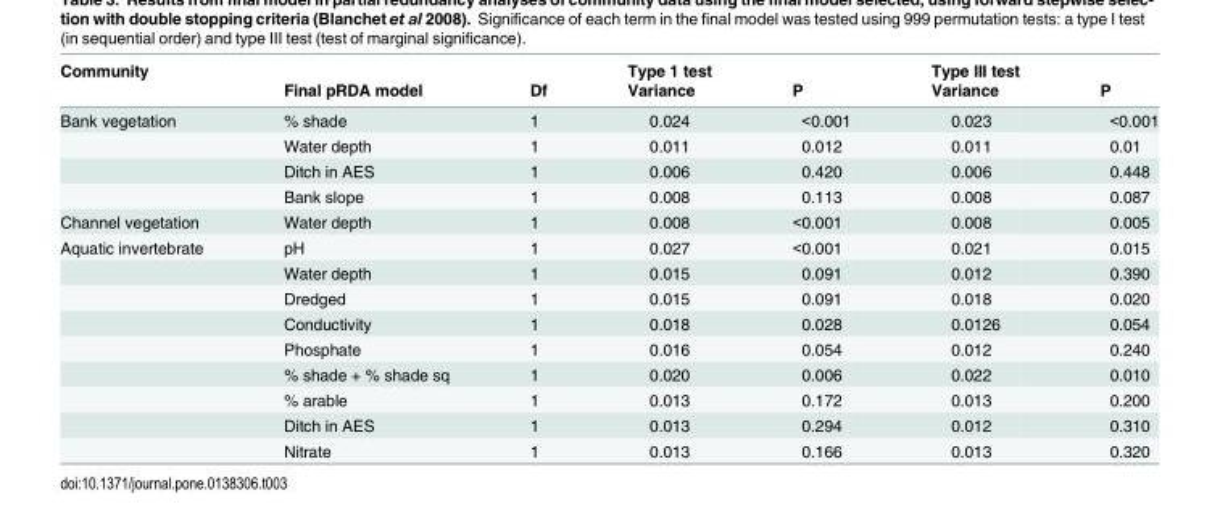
<table><thead><tr><td rowspan="2">Community</td><td rowspan="2">Final pRDA model</td><td rowspan="2">Df</td><td rowspan="2">Type 1 test Variance</td><td rowspan="2">P</td><td rowspan="2">Type III test Variance</td><td rowspan="2">P</td></tr><tr></tr></thead><tbody><tr><td rowspan="4">Bank vegetation</td><td>% shade</td><td>1</td><td>0.024</td><td>&lt;0.001</td><td>0.023</td><td>&lt;0.001</td></tr><tr><td>Water depth</td><td>1</td><td>0.011</td><td>0.012</td><td>0.011</td><td>0.01</td></tr><tr><td>Ditch in AES</td><td>1</td><td>0.006</td><td>0.420</td><td>0.006</td><td>0.448</td></tr><tr><td>Bank slope</td><td>1</td><td>0.008</td><td>0.113</td><td>0.008</td><td>0.087</td></tr><tr><td>Channel vegetation</td><td>Water depth</td><td>1</td><td>0.008</td><td>&lt;0.001</td><td>0.008</td><td>0.005</td></tr><tr><td rowspan="9">Aquatic invertebrate</td><td>pH</td><td>1</td><td>0.027</td><td>&lt;0.001</td><td>0.021</td><td>0.015</td></tr><tr><td>Water depth</td><td>1</td><td>0.015</td><td>0.091</td><td>0.012</td><td>0.390</td></tr><tr><td>Dredged</td><td>1</td><td>0.015</td><td>0.091</td><td>0.018</td><td>0.020</td></tr><tr><td>Conductivity</td><td>1</td><td>0.018</td><td>0.028</td><td>0.0126</td><td>0.054</td></tr><tr><td>Phosphate</td><td>1</td><td>0.016</td><td>0.054</td><td>0.012</td><td>0.240</td></tr><tr><td>% shade + % shade sq</td><td>1</td><td>0.020</td><td>0.006</td><td>0.022</td><td>0.010</td></tr><tr><td>% arable</td><td>1</td><td>0.013</td><td>0.172</td><td>0.013</td><td>0.200</td></tr><tr><td>Ditch in AES</td><td>1</td><td>0.013</td><td>0.294</td><td>0.012</td><td>0.310</td></tr><tr><td>Nitrate</td><td>1</td><td>0.013</td><td>0.166</td><td>0.013</td><td>0.320</td></tr></tbody></table>